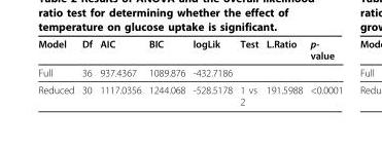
<table><thead><tr><td>Model</td><td>Df</td><td>AIC</td><td>BIC</td><td>logLik</td><td>Test</td><td>L.Ratio</td><td>p- value</td></tr></thead><tbody><tr><td>Full</td><td>36</td><td>937.4367</td><td>1089.876</td><td>-432.7186</td><td></td><td></td><td></td></tr><tr><td>Reduced</td><td>30</td><td>1117.0356</td><td>1244.068</td><td>-528.5178</td><td>1 vs 2</td><td>191.5988</td><td>&lt;0.0001</td></tr></tbody></table>